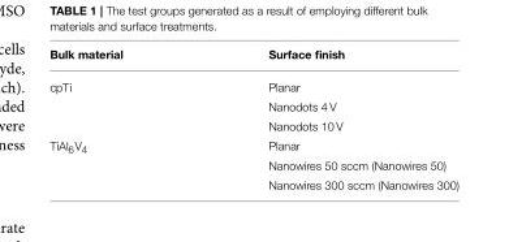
<table><thead><tr><td>Bulk material</td><td>Surface finish</td></tr></thead><tbody><tr><td rowspan="3">cpTi</td><td>Planar</td></tr><tr><td>Nanodots 4 V</td></tr><tr><td>Nanodots 10 V</td></tr><tr><td rowspan="3">TiAl<sub>6</sub>V<sub>4</sub></td><td>Planar</td></tr><tr><td>Nanowires 50 sccm (Nanowires 50)</td></tr><tr><td>Nanowires 300 sccm (Nanowires 300)</td></tr></tbody></table>